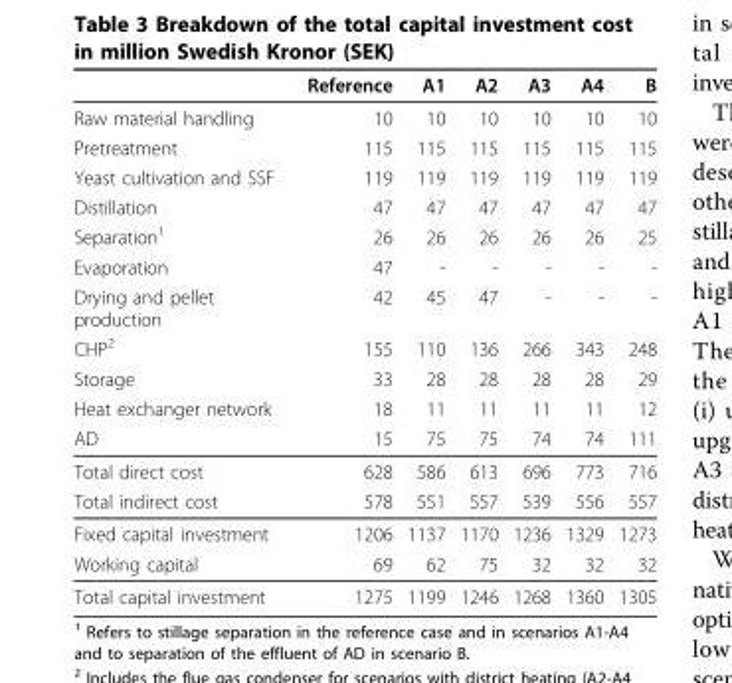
<table><thead><tr><td></td><td>Reference</td><td>A1</td><td>A2</td><td>A3</td><td>A4</td><td>B</td></tr></thead><tbody><tr><td>Raw material handling</td><td>10</td><td>10</td><td>10</td><td>10</td><td>10</td><td>10</td></tr><tr><td>Pretreatment</td><td>115</td><td>115</td><td>115</td><td>115</td><td>115</td><td>115</td></tr><tr><td>Yeast cultivation and SSF</td><td>119</td><td>119</td><td>119</td><td>119</td><td>119</td><td>119</td></tr><tr><td>Distillation</td><td>47</td><td>47</td><td>47</td><td>47</td><td>47</td><td>47</td></tr><tr><td>Separation<sup>1</sup></td><td>26</td><td>26</td><td>26</td><td>26</td><td>26</td><td>25</td></tr><tr><td>Evaporation</td><td>47</td><td>-</td><td>-</td><td>-</td><td>-</td><td>-</td></tr><tr><td>Drying and pellet production</td><td>42</td><td>45</td><td>47</td><td>-</td><td>-</td><td>-</td></tr><tr><td>CHP<sup>2</sup></td><td>155</td><td>110</td><td>136</td><td>266</td><td>343</td><td>248</td></tr><tr><td>Storage</td><td>33</td><td>28</td><td>28</td><td>28</td><td>28</td><td>29</td></tr><tr><td>Heat exchanger network</td><td>18</td><td>11</td><td>11</td><td>11</td><td>11</td><td>12</td></tr><tr><td>AD</td><td>15</td><td>75</td><td>75</td><td>74</td><td>74</td><td>111</td></tr><tr><td>Total direct cost</td><td>628</td><td>586</td><td>613</td><td>696</td><td>773</td><td>716</td></tr><tr><td>Total indirect cost</td><td>578</td><td>551</td><td>557</td><td>539</td><td>556</td><td>557</td></tr><tr><td>Fixed capital investment</td><td>1206</td><td>1137</td><td>1170</td><td>1236</td><td>1329</td><td>1273</td></tr><tr><td>Working capital</td><td>69</td><td>62</td><td>75</td><td>32</td><td>32</td><td>32</td></tr><tr><td>Total capital investment</td><td>1275</td><td>1199</td><td>1246</td><td>1268</td><td>1360</td><td>1305</td></tr></tbody></table>